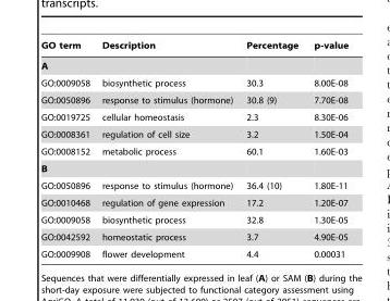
<table><thead><tr><td>GO term</td><td>Description</td><td>Percentage</td><td>p-value</td></tr></thead><tbody><tr><td colspan="4">A</td></tr><tr><td>GO:0009058</td><td>biosynthetic process</td><td>30.3</td><td>8.00E-08</td></tr><tr><td>GO:0050896</td><td>response to stimulus (hormone)</td><td>30.8 (9)</td><td>7.70E-08</td></tr><tr><td>GO:0019725</td><td>cellular homeostasis</td><td>2.3</td><td>8.30E-06</td></tr><tr><td>GO:0008361</td><td>regulation of cell size</td><td>3.2</td><td>1.50E-04</td></tr><tr><td>GO:0008152</td><td>metabolic process</td><td>60.1</td><td>1.60E-03</td></tr><tr><td colspan="4">B</td></tr><tr><td>GO:0050896</td><td>response to stimulus (hormone)</td><td>36.4 (10)</td><td>1.80E-11</td></tr><tr><td>GO:0010468</td><td>regulation of gene expression</td><td>17.2</td><td>1.20E-07</td></tr><tr><td>GO:0009058</td><td>biosynthetic process</td><td>32.8</td><td>1.30E-05</td></tr><tr><td>GO:0042592</td><td>homeostatic process</td><td>3.7</td><td>4.90E-05</td></tr><tr><td>GO:0009908</td><td>flower development</td><td>4.4</td><td>0.00031</td></tr></tbody></table>